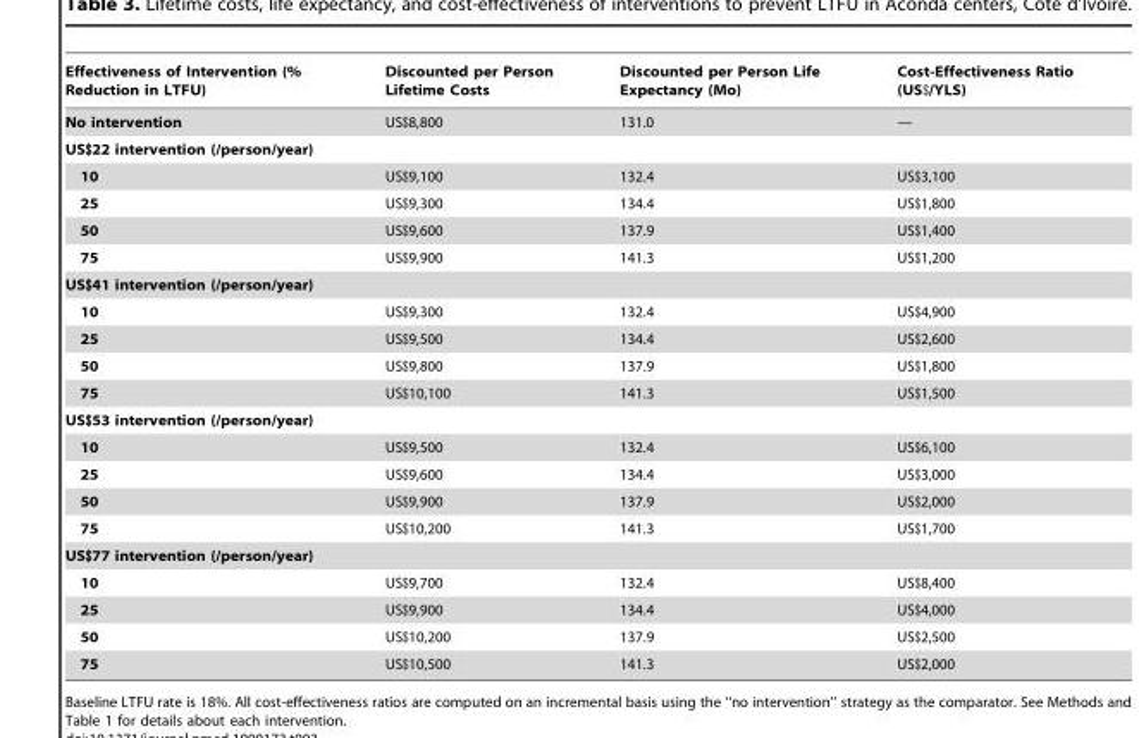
<table><thead><tr><td>Effectiveness of Intervention (% Reduction in LTFU)</td><td>Discounted per Person Lifetime Costs</td><td>Discounted per Person Life Expectancy (Mo)</td><td>Cost-Effectiveness Ratio (US$/YLS)</td></tr></thead><tbody><tr><td>No intervention</td><td>US$8,800</td><td>131.0</td><td>—</td></tr><tr><td colspan="4">US$22 intervention (/person/year)</td></tr><tr><td>10</td><td>US$9,100</td><td>132.4</td><td>US$3,100</td></tr><tr><td>25</td><td>US$9,300</td><td>134.4</td><td>US$1,800</td></tr><tr><td>50</td><td>US$9,600</td><td>137.9</td><td>US$1,400</td></tr><tr><td>75</td><td>US$9,900</td><td>141.3</td><td>US$1,200</td></tr><tr><td colspan="4">US$41 intervention (/person/year)</td></tr><tr><td>10</td><td>US$9,300</td><td>132.4</td><td>US$4,900</td></tr><tr><td>25</td><td>US$9,500</td><td>134.4</td><td>US$2,600</td></tr><tr><td>50</td><td>US$9,800</td><td>137.9</td><td>US$1,800</td></tr><tr><td>75</td><td>US$10,100</td><td>141.3</td><td>US$1,500</td></tr><tr><td colspan="4">US$53 intervention (/person/year)</td></tr><tr><td>10</td><td>US$9,500</td><td>132.4</td><td>US$6,100</td></tr><tr><td>25</td><td>US$9,600</td><td>134.4</td><td>US$3,000</td></tr><tr><td>50</td><td>US$9,900</td><td>137.9</td><td>US$2,000</td></tr><tr><td>75</td><td>US$10,200</td><td>141.3</td><td>US$1,700</td></tr><tr><td colspan="4">US$77 intervention (/person/year)</td></tr><tr><td>10</td><td>US$9,700</td><td>132.4</td><td>US$8,400</td></tr><tr><td>25</td><td>US$9,900</td><td>134.4</td><td>US$4,000</td></tr><tr><td>50</td><td>US$10,200</td><td>137.9</td><td>US$2,500</td></tr><tr><td>75</td><td>US$10,500</td><td>141.3</td><td>US$2,000</td></tr></tbody></table>